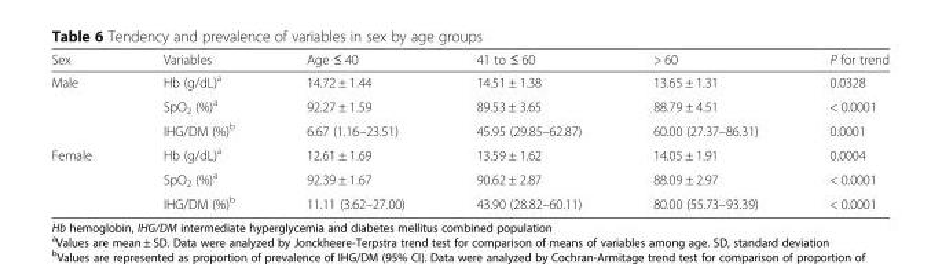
<table><thead><tr><td>Sex</td><td>Variables</td><td>Age ≤ 40</td><td>41 to ≤ 60</td><td>&gt; 60</td><td>P for trend</td></tr></thead><tbody><tr><td rowspan="3">Male</td><td>Hb (g/dL)<sup>a</sup></td><td>14.72 ± 1.44</td><td>14.51 ± 1.38</td><td>13.65 ± 1.31</td><td>0.0328</td></tr><tr><td>SpO<sub>2</sub> (%)<sup>a</sup></td><td>92.27 ± 1.59</td><td>89.53 ± 3.65</td><td>88.79 ± 4.51</td><td>&lt; 0.0001</td></tr><tr><td>IHG/DM (%)<sup>b</sup></td><td>6.67 (1.16–23.51)</td><td>45.95 (29.85–62.87)</td><td>60.00 (27.37–86.31)</td><td>0.0001</td></tr><tr><td rowspan="3">Female</td><td>Hb (g/dL)<sup>a</sup></td><td>12.61 ± 1.69</td><td>13.59 ± 1.62</td><td>14.05 ± 1.91</td><td>0.0004</td></tr><tr><td>SpO<sub>2</sub> (%)<sup>a</sup></td><td>92.39 ± 1.67</td><td>90.62 ± 2.87</td><td>88.09 ± 2.97</td><td>&lt; 0.0001</td></tr><tr><td>IHG/DM (%)<sup>b</sup></td><td>11.11 (3.62–27.00)</td><td>43.90 (28.82–60.11)</td><td>80.00 (55.73–93.39)</td><td>&lt; 0.0001</td></tr></tbody></table>